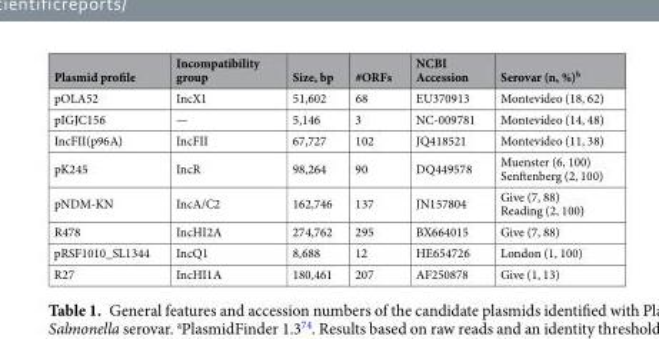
<table><thead><tr><td>Plasmid profile</td><td>Incompatibility group</td><td>Size, bp</td><td>#ORFs</td><td>NCBI Accession</td><td>Serovar (n, %)<sup>b</sup></td></tr></thead><tbody><tr><td>pOLA52</td><td>IncX1</td><td>51,602</td><td>68</td><td>EU370913</td><td>Montevideo (18, 62)</td></tr><tr><td>pIGJC156</td><td>—</td><td>5,146</td><td>3</td><td>NC-009781</td><td>Montevideo (14, 48)</td></tr><tr><td>IncFII(p96A)</td><td>IncFII</td><td>67,727</td><td>102</td><td>JQ418521</td><td>Montevideo (11, 38)</td></tr><tr><td>pK245</td><td>IncR</td><td>98,264</td><td>90</td><td>DQ449578</td><td>Muenster (6, 100) Senftenberg (2, 100)</td></tr><tr><td>pNDM-KN</td><td>IncA/C2</td><td>162,746</td><td>137</td><td>JN157804</td><td>Give (7, 88) Reading (2, 100)</td></tr><tr><td>R478</td><td>IncHI2A</td><td>274,762</td><td>295</td><td>BX664015</td><td>Give (7, 88)</td></tr><tr><td>pRSF1010_SL1344</td><td>IncQ1</td><td>8,688</td><td>12</td><td>HE654726</td><td>London (1, 100)</td></tr><tr><td>R27</td><td>IncHI1A</td><td>180,461</td><td>207</td><td>AF250878</td><td>Give (1, 13)</td></tr></tbody></table>